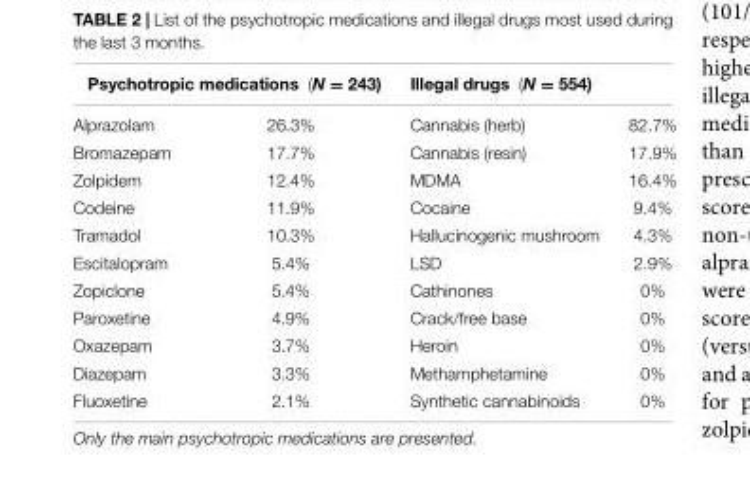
<table><thead><tr><td colspan="2">Psychotropic medications (N = 243)</td><td colspan="2">Illegal drugs (N = 554)</td></tr><tr><td>Alprazolam</td><td>26.3%</td><td>Cannabis (herb)</td><td>82.7%</td></tr></thead><tbody><tr><td>Bromazepam</td><td>17.7%</td><td>Cannabis (resin)</td><td>17.9%</td></tr><tr><td>Zolpidem</td><td>12.4%</td><td>MDMA</td><td>16.4%</td></tr><tr><td>Codeine</td><td>11.9%</td><td>Cocaine</td><td>9.4%</td></tr><tr><td>Tramadol</td><td>10.3%</td><td>Hallucinogenic mushroom</td><td>4.3%</td></tr><tr><td>Escitalopram</td><td>5.4%</td><td>LSD</td><td>2.9%</td></tr><tr><td>Zopiclone</td><td>5.4%</td><td>Cathinones</td><td>0%</td></tr><tr><td>Paroxetine</td><td>4.9%</td><td>Crack/free base</td><td>0%</td></tr><tr><td>Oxazepam</td><td>3.7%</td><td>Heroin</td><td>0%</td></tr><tr><td>Diazepam</td><td>3.3%</td><td>Methamphetamine</td><td>0%</td></tr><tr><td>Fluoxetine</td><td>2.1%</td><td>Synthetic cannabinoids</td><td>0%</td></tr></tbody></table>